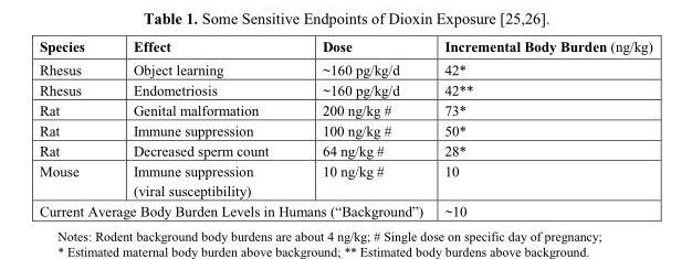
<table><thead><tr><td>Species</td><td>Effect</td><td>Dose</td><td>Incremental Body Burden (ng/kg)</td></tr></thead><tbody><tr><td>Rhesus</td><td>Object learning</td><td>~160 pg/kg/d</td><td>42*</td></tr><tr><td>Rhesus</td><td>Endometriosis</td><td>~160 pg/kg/d</td><td>42**</td></tr><tr><td>Rat</td><td>Genital malformation</td><td>200 ng/kg #</td><td>73*</td></tr><tr><td>Rat</td><td>Immune suppression</td><td>100 ng/kg #</td><td>50*</td></tr><tr><td>Rat</td><td>Decreased sperm count</td><td>64 ng/kg #</td><td>28*</td></tr><tr><td>Mouse</td><td>Immune suppression (viral susceptibility)</td><td>10 ng/kg #</td><td>10</td></tr><tr><td colspan="3">Current Average Body Burden Levels in Humans (“Background”)</td><td>~10</td></tr></tbody></table>